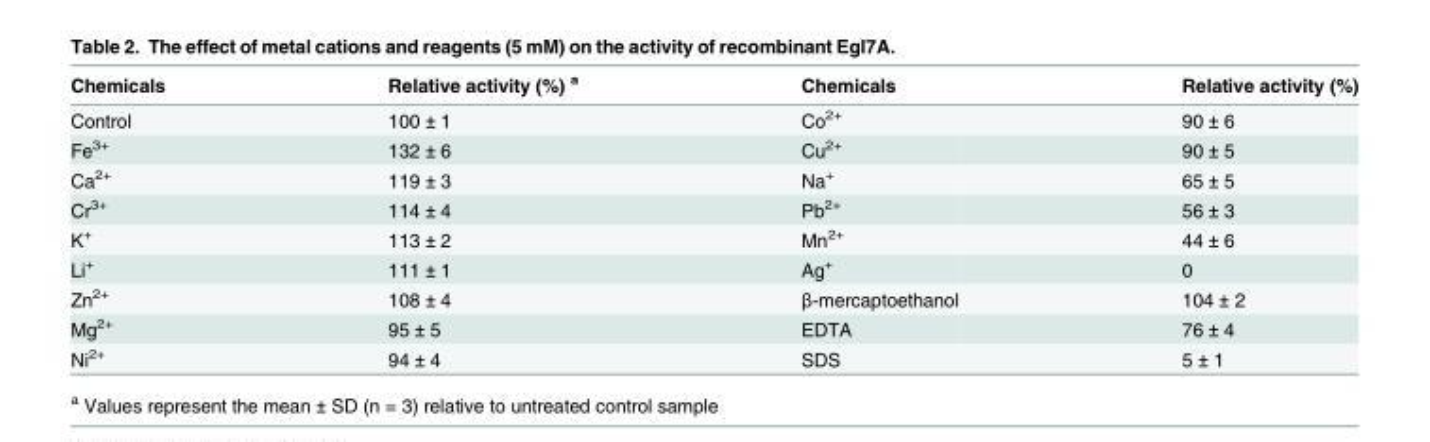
<table><thead><tr><td>Chemicals</td><td>Relative activity (%) <sup>a</sup></td><td>Chemicals</td><td>Relative activity (%)</td></tr></thead><tbody><tr><td>Control</td><td>100 ± 1</td><td>Co<sup>2+</sup></td><td>90 ± 6</td></tr><tr><td>Fe<sup>3+</sup></td><td>132 ± 6</td><td>Cu<sup>2+</sup></td><td>90 ± 5</td></tr><tr><td>Ca<sup>2+</sup></td><td>119 ± 3</td><td>Na<sup>+</sup></td><td>65 ± 5</td></tr><tr><td>Cr<sup>3+</sup></td><td>114 ± 4</td><td>Pb<sup>2+</sup></td><td>56 ± 3</td></tr><tr><td>K<sup>+</sup></td><td>113 ± 2</td><td>Mn<sup>2+</sup></td><td>44 ± 6</td></tr><tr><td>Li<sup>+</sup></td><td>111 ± 1</td><td>Ag<sup>+</sup></td><td>0</td></tr><tr><td>Zn<sup>2+</sup></td><td>108 ± 4</td><td>β-mercaptoethanol</td><td>104 ± 2</td></tr><tr><td>Mg<sup>2+</sup></td><td>95 ± 5</td><td>EDTA</td><td>76 ± 4</td></tr><tr><td>Ni<sup>2+</sup></td><td>94 ± 4</td><td>SDS</td><td>5 ± 1</td></tr></tbody></table>